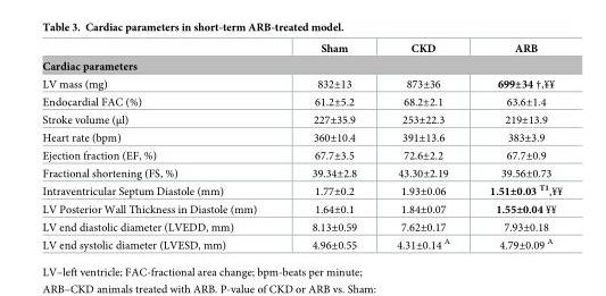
<table><thead><tr><td></td><td>Sham</td><td>CKD</td><td>ARB</td></tr></thead><tbody><tr><td colspan="4">Cardiac parameters</td></tr><tr><td>LV mass (mg)</td><td>832±13</td><td>873±36</td><td>699±34 †,¥¥</td></tr><tr><td>Endocardial FAC (%)</td><td>61.2±5.2</td><td>68.2±2.1</td><td>63.6±1.4</td></tr><tr><td>Stroke volume (μl)</td><td>227±35.9</td><td>253±22.3</td><td>219±13.9</td></tr><tr><td>Heart rate (bpm)</td><td>360±10.4</td><td>391±13.6</td><td>383±3.9</td></tr><tr><td>Ejection fraction (EF, %)</td><td>67.7±3.5</td><td>72.6±2.2</td><td>67.7±0.9</td></tr><tr><td>Fractional shortening (FS, %)</td><td>39.34±2.8</td><td>43.30±2.19</td><td>39.56±0.73</td></tr><tr><td>Intraventricular Septum Diastole (mm)</td><td>1.77±0.2</td><td>1.93±0.06</td><td>1.51±0.03 <sup>T1</sup>,¥¥</td></tr><tr><td>LV Posterior Wall Thickness in Diastole (mm)</td><td>1.64±0.1</td><td>1.84±0.07</td><td>1.55±0.04 ¥¥</td></tr><tr><td>LV end diastolic diameter (LVEDD, mm)</td><td>8.13±0.59</td><td>7.62±0.17</td><td>7.93±0.18</td></tr><tr><td>LV end systolic diameter (LVESD, mm)</td><td>4.96±0.55</td><td>4.31±0.14 <sup>A</sup></td><td>4.79±0.09 <sup>A</sup></td></tr></tbody></table>